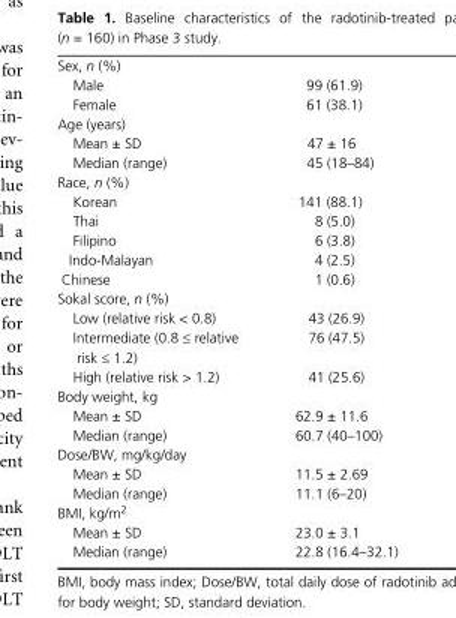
<table><tbody><tr><td colspan="2">Sex, n (%)</td></tr><tr><td>Male</td><td>99 (61.9)</td></tr><tr><td>Female</td><td>61 (38.1)</td></tr><tr><td colspan="2">Age (years)</td></tr><tr><td>Mean ± SD</td><td>47 ± 16</td></tr><tr><td>Median (range)</td><td>45 (18–84)</td></tr><tr><td colspan="2">Race, n (%)</td></tr><tr><td>Korean</td><td>141 (88.1)</td></tr><tr><td>Thai</td><td>8 (5.0)</td></tr><tr><td>Filipino</td><td>6 (3.8)</td></tr><tr><td>Indo- Malayan</td><td>4 (2.5)</td></tr><tr><td>Chinese</td><td>1 (0.6)</td></tr><tr><td colspan="2">Sokal score, n (%)</td></tr><tr><td>Low (relative risk &lt; 0.8)</td><td>43 (26.9)</td></tr><tr><td>Intermediate (0.8 ≤ relative risk ≤ 1.2)</td><td>76 (47.5)</td></tr><tr><td>High (relative risk &gt; 1.2)</td><td>41 (25.6)</td></tr><tr><td colspan="2">Body weight, kg</td></tr><tr><td>Mean ± SD</td><td>62.9 ± 11.6</td></tr><tr><td>Median (range)</td><td>60.7 (40–100)</td></tr><tr><td colspan="2">Dose/BW, mg/kg/day</td></tr><tr><td>Mean ± SD</td><td>11.5 ± 2.69</td></tr><tr><td>Median (range)</td><td>11.1 (6–20)</td></tr><tr><td colspan="2">BMI, kg/m<sup>2</sup></td></tr><tr><td>Mean ± SD</td><td>23.0 ± 3.1</td></tr><tr><td>Median (range)</td><td>22.8 (16.4–32.1)</td></tr></tbody></table>